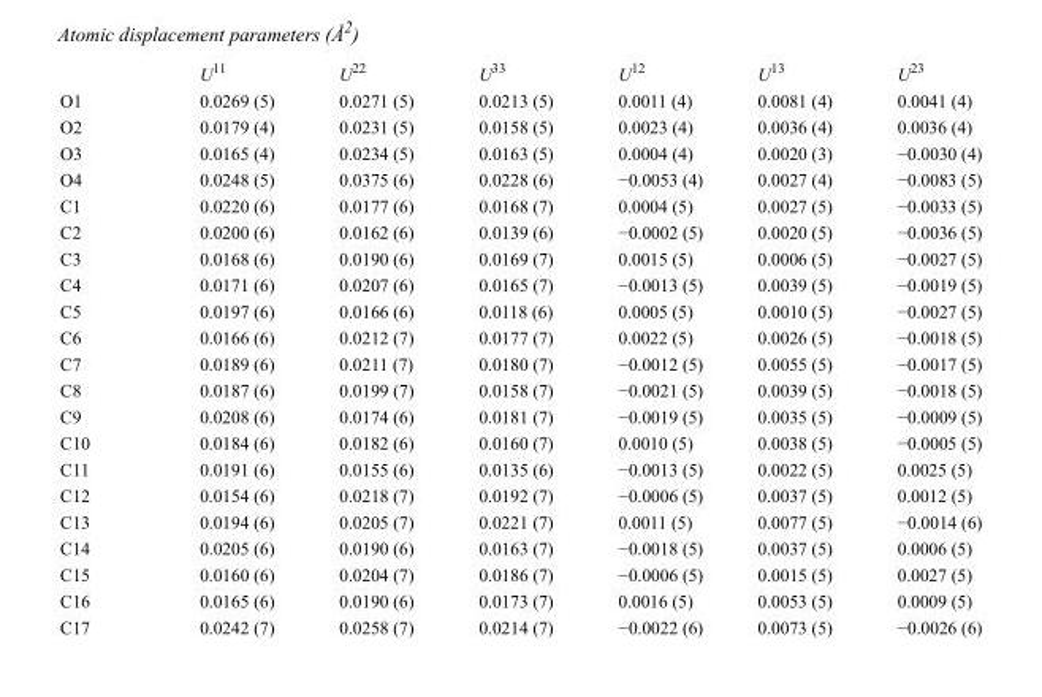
<table><thead><tr><td></td><td>U<sup>11</sup></td><td>U<sup>22</sup></td><td>U<sup>33</sup></td><td>U<sup>12</sup></td><td>U<sup>13</sup></td><td>U<sup>23</sup></td></tr></thead><tbody><tr><td>O1</td><td>0.0269 (5)</td><td>0.0271 (5)</td><td>0.0213 (5)</td><td>0.0011 (4)</td><td>0.0081 (4)</td><td>0.0041 (4)</td></tr><tr><td>O2</td><td>0.0179 (4)</td><td>0.0231 (5)</td><td>0.0158 (5)</td><td>0.0023 (4)</td><td>0.0036 (4)</td><td>0.0036 (4)</td></tr><tr><td>O3</td><td>0.0165 (4)</td><td>0.0234 (5)</td><td>0.0163 (5)</td><td>0.0004 (4)</td><td>0.0020 (3)</td><td>−0.0030 (4)</td></tr><tr><td>O4</td><td>0.0248 (5)</td><td>0.0375 (6)</td><td>0.0228 (6)</td><td>−0.0053 (4)</td><td>0.0027 (4)</td><td>−0.0083 (5)</td></tr><tr><td>C1</td><td>0.0220 (6)</td><td>0.0177 (6)</td><td>0.0168 (7)</td><td>0.0004 (5)</td><td>0.0027 (5)</td><td>−0.0033 (5)</td></tr><tr><td>C2</td><td>0.0200 (6)</td><td>0.0162 (6)</td><td>0.0139 (6)</td><td>−0.0002 (5)</td><td>0.0020 (5)</td><td>−0.0036 (5)</td></tr><tr><td>C3</td><td>0.0168 (6)</td><td>0.0190 (6)</td><td>0.0169 (7)</td><td>0.0015 (5)</td><td>0.0006 (5)</td><td>−0.0027 (5)</td></tr><tr><td>C4</td><td>0.0171 (6)</td><td>0.0207 (6)</td><td>0.0165 (7)</td><td>−0.0013 (5)</td><td>0.0039 (5)</td><td>−0.0019 (5)</td></tr><tr><td>C5</td><td>0.0197 (6)</td><td>0.0166 (6)</td><td>0.0118 (6)</td><td>0.0005 (5)</td><td>0.0010 (5)</td><td>−0.0027 (5)</td></tr><tr><td>C6</td><td>0.0166 (6)</td><td>0.0212 (7)</td><td>0.0177 (7)</td><td>0.0022 (5)</td><td>0.0026 (5)</td><td>−0.0018 (5)</td></tr><tr><td>C7</td><td>0.0189 (6)</td><td>0.0211 (7)</td><td>0.0180 (7)</td><td>−0.0012 (5)</td><td>0.0055 (5)</td><td>−0.0017 (5)</td></tr><tr><td>C8</td><td>0.0187 (6)</td><td>0.0199 (7)</td><td>0.0158 (7)</td><td>−0.0021 (5)</td><td>0.0039 (5)</td><td>−0.0018 (5)</td></tr><tr><td>C9</td><td>0.0208 (6)</td><td>0.0174 (6)</td><td>0.0181 (7)</td><td>−0.0019 (5)</td><td>0.0035 (5)</td><td>−0.0009 (5)</td></tr><tr><td>C10</td><td>0.0184 (6)</td><td>0.0182 (6)</td><td>0.0160 (7)</td><td>0.0010 (5)</td><td>0.0038 (5)</td><td>−0.0005 (5)</td></tr><tr><td>C11</td><td>0.0191 (6)</td><td>0.0155 (6)</td><td>0.0135 (6)</td><td>−0.0013 (5)</td><td>0.0022 (5)</td><td>0.0025 (5)</td></tr><tr><td>C12</td><td>0.0154 (6)</td><td>0.0218 (7)</td><td>0.0192 (7)</td><td>−0.0006 (5)</td><td>0.0037 (5)</td><td>0.0012 (5)</td></tr><tr><td>C13</td><td>0.0194 (6)</td><td>0.0205 (7)</td><td>0.0221 (7)</td><td>0.0011 (5)</td><td>0.0077 (5)</td><td>−0.0014 (6)</td></tr><tr><td>C14</td><td>0.0205 (6)</td><td>0.0190 (6)</td><td>0.0163 (7)</td><td>−0.0018 (5)</td><td>0.0037 (5)</td><td>0.0006 (5)</td></tr><tr><td>C15</td><td>0.0160 (6)</td><td>0.0204 (7)</td><td>0.0186 (7)</td><td>−0.0006 (5)</td><td>0.0015 (5)</td><td>0.0027 (5)</td></tr><tr><td>C16</td><td>0.0165 (6)</td><td>0.0190 (6)</td><td>0.0173 (7)</td><td>0.0016 (5)</td><td>0.0053 (5)</td><td>0.0009 (5)</td></tr><tr><td>C17</td><td>0.0242 (7)</td><td>0.0258 (7)</td><td>0.0214 (7)</td><td>−0.0022 (6)</td><td>0.0073 (5)</td><td>−0.0026 (6)</td></tr></tbody></table>